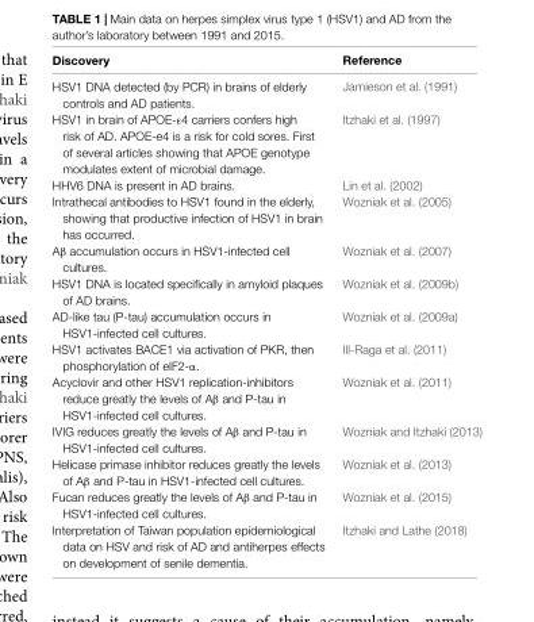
<table><thead><tr><td>Discovery</td><td>Reference</td></tr></thead><tbody><tr><td>HSV1 DNA detected (by PCR) in brains of elderly controls and AD patients.</td><td>Jamieson et al. (1991)</td></tr><tr><td>HSV1 in brain of APOE-ε4 carriers confers high risk of AD. APOE-e4 is a risk for cold sores. First of several articles showing that APOE genotype modulates extent of microbial damage.</td><td>Itzhaki et al. (1997)</td></tr><tr><td>HHV6 DNA is present in AD brains.</td><td>Lin et al. (2002)</td></tr><tr><td>Intrathecal antibodies to HSV1 found in the elderly, showing that productive infection of HSV1 in brain has occurred.</td><td>Wozniak et al. (2005)</td></tr><tr><td>Aβ accumulation occurs in HSV1-infected cell cultures.</td><td>Wozniak et al. (2007)</td></tr><tr><td>HSV1 DNA is located specifically in amyloid plaques of AD brains.</td><td>Wozniak et al. (2009b)</td></tr><tr><td>AD-like tau (P-tau) accumulation occurs in HSV1-infected cell cultures.</td><td>Wozniak et al. (2009a)</td></tr><tr><td>HSV1 activates BACE1 via activation of PKR, then phosphorylation of eIF2-α.</td><td>Ill-Raga et al. (2011)</td></tr><tr><td>Acyclovir and other HSV1 replication-inhibitors reduce greatly the levels of Aβ and P-tau in HSV1-infected cell cultures.</td><td>Wozniak et al. (2011)</td></tr><tr><td>IVIG reduces greatly the levels of Aβ and P-tau in HSV1-infected cell cultures.</td><td>Wozniak and Itzhaki (2013)</td></tr><tr><td>Helicase primase inhibitor reduces greatly the levels of Aβ and P-tau in HSV1-infected cell cultures.</td><td>Wozniak et al. (2013)</td></tr><tr><td>Fucan reduces greatly the levels of Aβ and P-tau in HSV1-infected cell cultures.</td><td>Wozniak et al. (2015)</td></tr><tr><td>Interpretation of Taiwan population epidemiological data on HSV and risk of AD and antiherpes effects on development of senile dementia.</td><td>Itzhaki and Lathe (2018)</td></tr></tbody></table>